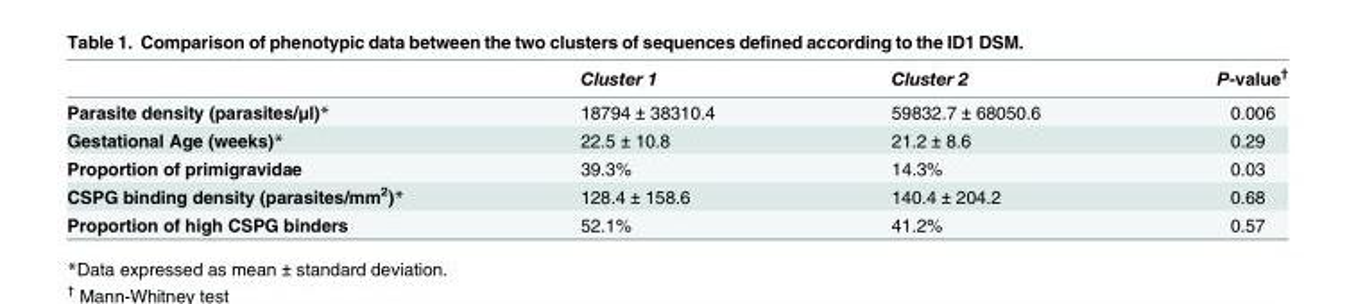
<table><thead><tr><td></td><td>Cluster 1</td><td>Cluster 2</td><td>P-value<sup>†</sup></td></tr></thead><tbody><tr><td>Parasite density (parasites/μl)*</td><td>18794 ± 38310.4</td><td>59832.7 ± 68050.6</td><td>0.006</td></tr><tr><td>Gestational Age (weeks)*</td><td>22.5 ± 10.8</td><td>21.2 ± 8.6</td><td>0.29</td></tr><tr><td>Proportion of primigravidae</td><td>39.3%</td><td>14.3%</td><td>0.03</td></tr><tr><td>CSPG binding density (parasites/mm<sup>2</sup>)*</td><td>128.4 ± 158.6</td><td>140.4 ± 204.2</td><td>0.68</td></tr><tr><td>Proportion of high CSPG binders</td><td>52.1%</td><td>41.2%</td><td>0.57</td></tr></tbody></table>